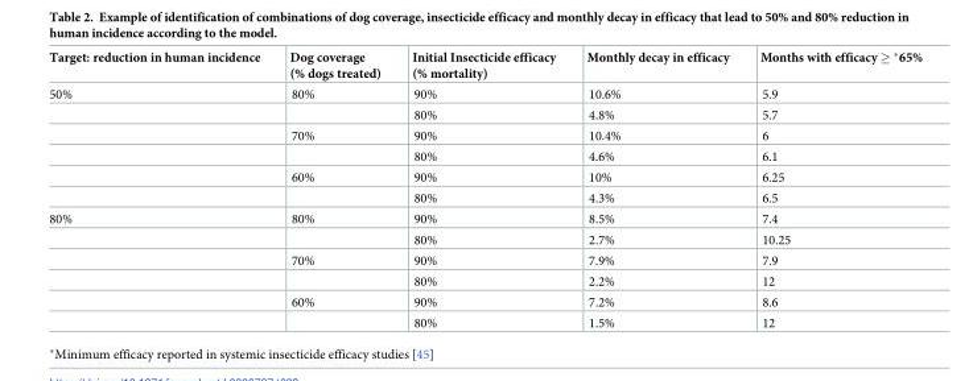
<table><thead><tr><td>Target: reduction in human incidence</td><td>Dog coverage (% dogs treated)</td><td>Initial Insecticide efficacy (% mortality)</td><td>Monthly decay in efficacy</td><td>Months with efficacy ≥ *65%</td></tr></thead><tbody><tr><td rowspan="6">50%</td><td>80%</td><td>90%</td><td>10.6%</td><td>5.9</td></tr><tr><td></td><td>80%</td><td>4.8%</td><td>5.7</td></tr><tr><td>70%</td><td>90%</td><td>10.4%</td><td>6</td></tr><tr><td></td><td>80%</td><td>4.6%</td><td>6.1</td></tr><tr><td>60%</td><td>90%</td><td>10%</td><td>6.25</td></tr><tr><td></td><td>80%</td><td>4.3%</td><td>6.5</td></tr><tr><td rowspan="6">80%</td><td>80%</td><td>90%</td><td>8.5%</td><td>7.4</td></tr><tr><td></td><td>80%</td><td>2.7%</td><td>10.25</td></tr><tr><td>70%</td><td>90%</td><td>7.9%</td><td>7.9</td></tr><tr><td></td><td>80%</td><td>2.2%</td><td>12</td></tr><tr><td>60%</td><td>90%</td><td>7.2%</td><td>8.6</td></tr><tr><td></td><td>80%</td><td>1.5%</td><td>12</td></tr></tbody></table>